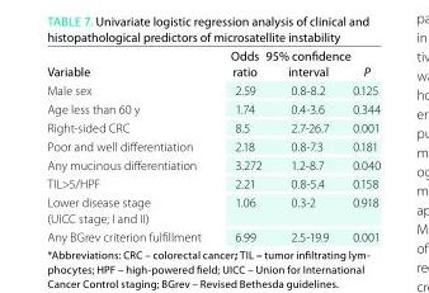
<table><thead><tr><td>Variable</td><td>odds ratio</td><td>95% confidence interval</td><td>P</td></tr></thead><tbody><tr><td>Male sex</td><td>2.59</td><td>0.8-8.2</td><td>0.125</td></tr><tr><td>Age less than 60 y</td><td>1.74</td><td>0.4-3.6</td><td>0.344</td></tr><tr><td>Right-sided CRC</td><td>8.5</td><td>2.7-26.7</td><td>0.001</td></tr><tr><td>Poor and well differentiation</td><td>2.18</td><td>0.8-7.3</td><td>0.181</td></tr><tr><td>Any mucinous differentiation</td><td>3.272</td><td>1.2-8.7</td><td>0.040</td></tr><tr><td>TIL&gt;5/HPF</td><td>2.21</td><td>0.8-5.4</td><td>0.158</td></tr><tr><td>Lower disease stage (UICC stage; I and II)</td><td>1.06</td><td>0.3-2</td><td>0.918</td></tr><tr><td>Any BGrev criterion fulfillment</td><td>6.99</td><td>2.5-19.9</td><td>0.001</td></tr></tbody></table>